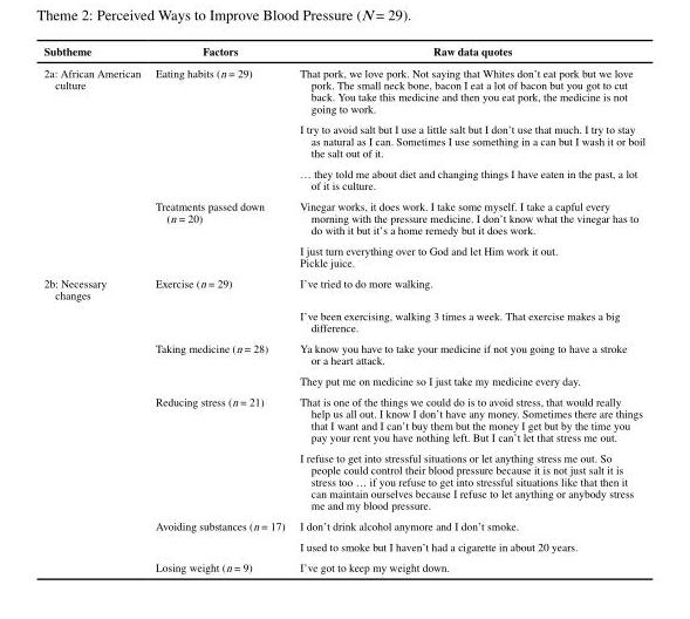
<table><thead><tr><td>Subtheme</td><td>Factors</td><td>Raw data quotes</td></tr></thead><tbody><tr><td rowspan="5">2a: African American culture</td><td>Eating habits (n = 29)</td><td>That pork, we love pork. Not saying that Whites don’t eat pork but we love pork. The small neck bone, bacon I eat a lot of bacon but you got to cut back. You take this medicine and then you eat pork, the medicine is not going to work.</td></tr><tr><td></td><td>I try to avoid salt but I use a little salt but I don’t use that much. I try to stay as natural as I can. Sometimes I use something in a can but I wash it or boil the salt out of it.</td></tr><tr><td></td><td>… they told me about diet and changing things I have eaten in the past, a lot of it is culture.</td></tr><tr><td>Treatments passed down (n = 20)</td><td>Vinegar works, it does work. I take some myself. I take a capful every morning with the pressure medicine. I don’t know what the vinegar has to do with it but it’s a home remedy but it does work.</td></tr><tr><td></td><td>I just turn everything over to God and let Him work it out. Pickle juice.</td></tr><tr><td rowspan="9">2b: Necessary changes</td><td>Exercise (n = 29)</td><td>I’ve tried to do more walking.</td></tr><tr><td></td><td>I’ve been exercising, walking 3 times a week. That exercise makes a big difference.</td></tr><tr><td>Taking medicine (n = 28)</td><td>Ya know you have to take your medicine if not you going to have a stroke or a heart attack.</td></tr><tr><td></td><td>They put me on medicine so I just take my medicine every day.</td></tr><tr><td>Reducing stress (n = 21)</td><td>That is one of the things we could do is to avoid stress, that would really help us all out. I know I don’t have any money. Sometimes there are things that I want and I can’t buy them but the money I get but by the time you pay your rent you have nothing left. But I can’t let that stress me out.</td></tr><tr><td></td><td>I refuse to get into stressful situations or let anything stress me out. So people could control their blood pressure because it is not just salt it is stress too … if you refuse to get into stressful situations like that then it can maintain ourselves because I refuse to let anything or anybody stress me and my blood pressure.</td></tr><tr><td>Avoiding substances (n = 17)</td><td>I don’t drink alcohol anymore and I don’t smoke.</td></tr><tr><td></td><td>I used to smoke but I haven’t had a cigarette in about 20 years.</td></tr><tr><td>Losing weight (n = 9)</td><td>I’ve got to keep my weight down.</td></tr></tbody></table>